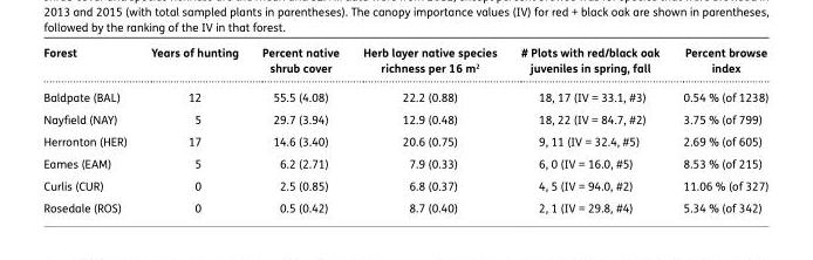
<table><thead><tr><td>Forest</td><td>Years of hunting</td><td>Percent native shrub cover</td><td>Herb layer native species richness per 16 m<sup>2</sup></td><td># Plots with red/black oak juveniles in spring, fall</td><td>Percent browse index</td></tr></thead><tbody><tr><td>Baldpate (BAL)</td><td>12</td><td>55.5 (4.08)</td><td>22.2 (0.88)</td><td>18, 17 (IV = 33.1, #3)</td><td>0.54 % (of 1238)</td></tr><tr><td>Nayfield (NAY)</td><td>5</td><td>29.7 (3.94)</td><td>12.9 (0.48)</td><td>18, 22 (IV = 84.7, #2)</td><td>3.75 % (of 799)</td></tr><tr><td>Herronton (HER)</td><td>17</td><td>14.6 (3.40)</td><td>20.6 (0.75)</td><td>9, 11 (IV = 32.4, #5)</td><td>2.69 % (of 605)</td></tr><tr><td>Eames (EAM)</td><td>5</td><td>6.2 (2.71)</td><td>7.9 (0.33)</td><td>6, 0 (IV = 16.0, #5)</td><td>8.53 % (of 215)</td></tr><tr><td>Curlis (CUR)</td><td>0</td><td>2.5 (0.85)</td><td>6.8 (0.37)</td><td>4, 5 (IV = 94.0, #2)</td><td>11.06 % (of 327)</td></tr><tr><td>Rosedale (ROS)</td><td>0</td><td>0.5 (0.42)</td><td>8.7 (0.40)</td><td>2, 1 (IV = 29.8, #4)</td><td>5.34 % (of 342)</td></tr></tbody></table>